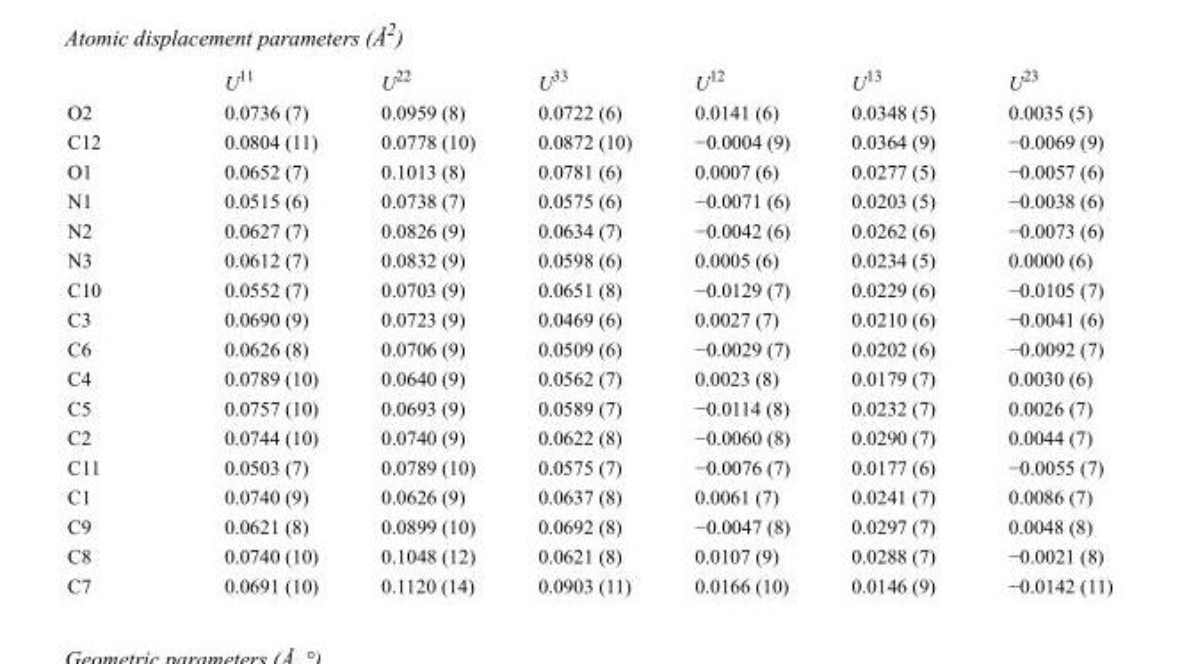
<table><thead><tr><td></td><td>U<sup>11</sup></td><td>U<sup>22</sup></td><td>U<sup>33</sup></td><td>U<sup>12</sup></td><td>U<sup>13</sup></td><td>U<sup>23</sup></td></tr></thead><tbody><tr><td>O2</td><td>0.0736 (7)</td><td>0.0959 (8)</td><td>0.0722 (6)</td><td>0.0141 (6)</td><td>0.0348 (5)</td><td>0.0035 (5)</td></tr><tr><td>C12</td><td>0.0804 (11)</td><td>0.0778 (10)</td><td>0.0872 (10)</td><td>−0.0004 (9)</td><td>0.0364 (9)</td><td>−0.0069 (9)</td></tr><tr><td>O1</td><td>0.0652 (7)</td><td>0.1013 (8)</td><td>0.0781 (6)</td><td>0.0007 (6)</td><td>0.0277 (5)</td><td>−0.0057 (6)</td></tr><tr><td>N1</td><td>0.0515 (6)</td><td>0.0738 (7)</td><td>0.0575 (6)</td><td>−0.0071 (6)</td><td>0.0203 (5)</td><td>−0.0038 (6)</td></tr><tr><td>N2</td><td>0.0627 (7)</td><td>0.0826 (9)</td><td>0.0634 (7)</td><td>−0.0042 (6)</td><td>0.0262 (6)</td><td>−0.0073 (6)</td></tr><tr><td>N3</td><td>0.0612 (7)</td><td>0.0832 (9)</td><td>0.0598 (6)</td><td>0.0005 (6)</td><td>0.0234 (5)</td><td>0.0000 (6)</td></tr><tr><td>C10</td><td>0.0552 (7)</td><td>0.0703 (9)</td><td>0.0651 (8)</td><td>−0.0129 (7)</td><td>0.0229 (6)</td><td>−0.0105 (7)</td></tr><tr><td>C3</td><td>0.0690 (9)</td><td>0.0723 (9)</td><td>0.0469 (6)</td><td>0.0027 (7)</td><td>0.0210 (6)</td><td>−0.0041 (6)</td></tr><tr><td>C6</td><td>0.0626 (8)</td><td>0.0706 (9)</td><td>0.0509 (6)</td><td>−0.0029 (7)</td><td>0.0202 (6)</td><td>−0.0092 (7)</td></tr><tr><td>C4</td><td>0.0789 (10)</td><td>0.0640 (9)</td><td>0.0562 (7)</td><td>0.0023 (8)</td><td>0.0179 (7)</td><td>0.0030 (6)</td></tr><tr><td>C5</td><td>0.0757 (10)</td><td>0.0693 (9)</td><td>0.0589 (7)</td><td>−0.0114 (8)</td><td>0.0232 (7)</td><td>0.0026 (7)</td></tr><tr><td>C2</td><td>0.0744 (10)</td><td>0.0740 (9)</td><td>0.0622 (8)</td><td>−0.0060 (8)</td><td>0.0290 (7)</td><td>0.0044 (7)</td></tr><tr><td>C11</td><td>0.0503 (7)</td><td>0.0789 (10)</td><td>0.0575 (7)</td><td>−0.0076 (7)</td><td>0.0177 (6)</td><td>−0.0055 (7)</td></tr><tr><td>C1</td><td>0.0740 (9)</td><td>0.0626 (9)</td><td>0.0637 (8)</td><td>0.0061 (7)</td><td>0.0241 (7)</td><td>0.0086 (7)</td></tr><tr><td>C9</td><td>0.0621 (8)</td><td>0.0899 (10)</td><td>0.0692 (8)</td><td>−0.0047 (8)</td><td>0.0297 (7)</td><td>0.0048 (8)</td></tr><tr><td>C8</td><td>0.0740 (10)</td><td>0.1048 (12)</td><td>0.0621 (8)</td><td>0.0107 (9)</td><td>0.0288 (7)</td><td>−0.0021 (8)</td></tr><tr><td>C7</td><td>0.0691 (10)</td><td>0.1120 (14)</td><td>0.0903 (11)</td><td>0.0166 (10)</td><td>0.0146 (9)</td><td>−0.0142 (11)</td></tr></tbody></table>